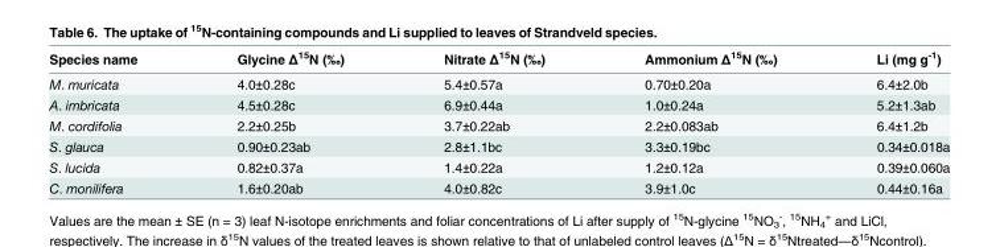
<table><thead><tr><td>Species name</td><td>Glycine Δ<sup>15</sup>N (‰)</td><td>Nitrate Δ<sup>15</sup>N (‰)</td><td>Ammonium Δ<sup>15</sup>N (‰)</td><td>Li (mg g<sup>-1</sup>)</td></tr></thead><tbody><tr><td>M. muricata</td><td>4.0±0.28c</td><td>5.4±0.57a</td><td>0.70±0.20a</td><td>6.4±2.0b</td></tr><tr><td>A. imbricata</td><td>4.5±0.28c</td><td>6.9±0.44a</td><td>1.0±0.24a</td><td>5.2±1.3ab</td></tr><tr><td>M. cordifolia</td><td>2.2±0.25b</td><td>3.7±0.22ab</td><td>2.2±0.083ab</td><td>6.4±1.2b</td></tr><tr><td>S. glauca</td><td>0.90±0.23ab</td><td>2.8±1.1bc</td><td>3.3±0.19bc</td><td>0.34±0.018a</td></tr><tr><td>S. lucida</td><td>0.82±0.37a</td><td>1.4±0.22a</td><td>1.2±0.12a</td><td>0.39±0.060a</td></tr><tr><td>C. monilifera</td><td>1.6±0.20ab</td><td>4.0±0.82c</td><td>3.9±1.0c</td><td>0.44±0.16a</td></tr></tbody></table>